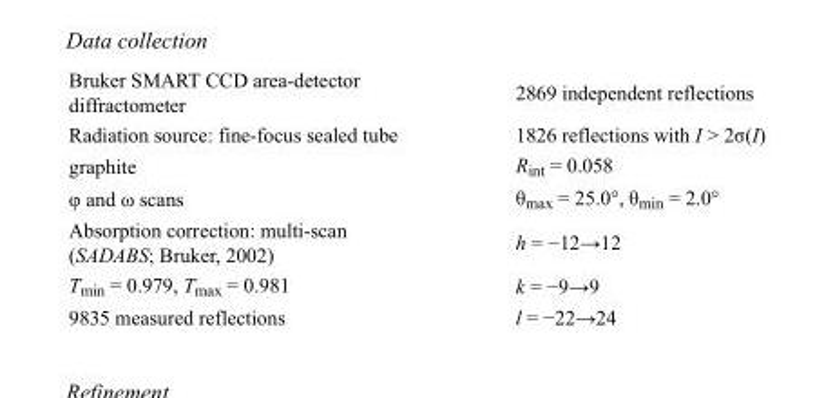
<table><tbody><tr><td>Bruker SMART CCD area-detector diffractometer</td><td>2869 independent reflections</td></tr><tr><td>Radiation source: fine-focus sealed tube</td><td>1826 reflections with I &gt; 2σ(I)</td></tr><tr><td>graphite</td><td>R<sub>int</sub> = 0.058</td></tr><tr><td>φ and ω scans</td><td>θ<sub>max</sub> = 25.0°, θ<sub>min</sub> = 2.0°</td></tr><tr><td>Absorption correction: multi-scan (SADABS; Bruker, 2002)</td><td>h = −12→12</td></tr><tr><td>T<sub>min</sub> = 0.979, T<sub>max</sub> = 0.981</td><td>k = −9→9</td></tr><tr><td>9835 measured reflections</td><td>l = −22→24</td></tr></tbody></table>